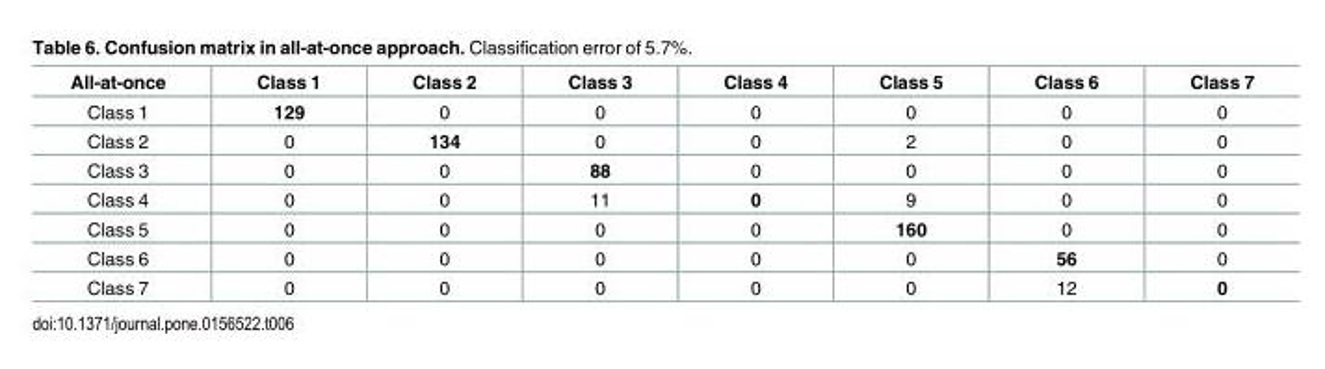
<table><thead><tr><td>All-at-once</td><td>Class 1</td><td>Class 2</td><td>Class 3</td><td>Class 4</td><td>Class 5</td><td>Class 6</td><td>Class 7</td></tr></thead><tbody><tr><td>Class 1</td><td>129</td><td>0</td><td>0</td><td>0</td><td>0</td><td>0</td><td>0</td></tr><tr><td>Class 2</td><td>0</td><td>134</td><td>0</td><td>0</td><td>2</td><td>0</td><td>0</td></tr><tr><td>Class 3</td><td>0</td><td>0</td><td>88</td><td>0</td><td>0</td><td>0</td><td>0</td></tr><tr><td>Class 4</td><td>0</td><td>0</td><td>11</td><td>0</td><td>9</td><td>0</td><td>0</td></tr><tr><td>Class 5</td><td>0</td><td>0</td><td>0</td><td>0</td><td>160</td><td>0</td><td>0</td></tr><tr><td>Class 6</td><td>0</td><td>0</td><td>0</td><td>0</td><td>0</td><td>56</td><td>0</td></tr><tr><td>Class 7</td><td>0</td><td>0</td><td>0</td><td>0</td><td>0</td><td>12</td><td>0</td></tr></tbody></table>